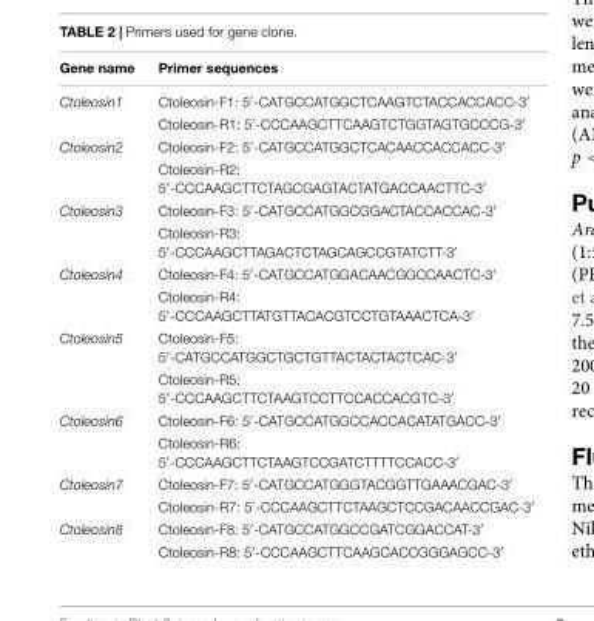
<table><thead><tr><td>Gene name</td><td>Primer sequences</td></tr></thead><tbody><tr><td rowspan="2">Ctoleosin1</td><td>Ctoleosin-F1: 5′-CATGCCATGGCTCAAGTCTACCACCACC-3′</td></tr><tr><td>Ctoleosin-R1: 5′-CCCAAGCTTCAAGTCTGGTAGTGCCCG-3′</td></tr><tr><td rowspan="2">Ctoleosin2</td><td>Ctoleosin-F2: 5′-CATGCCATGGCTCACAACCACCACC-3′</td></tr><tr><td>Ctoleosin-R2: 5′-CCCAAGCTTCTAGCGAGTACTATGACCAACTTC-3′</td></tr><tr><td rowspan="2">Ctoleosin3</td><td>Ctoleosin-F3: 5′-CATGCCATGGCGGACTACCACCAC-3′</td></tr><tr><td>Ctoleosin-R3: 5′-CCCAAGCTTAGACTCTAGCAGCCGTATCTT-3′</td></tr><tr><td rowspan="2">Ctoleosin4</td><td>Ctoleosin-F4: 5′-CATGCCATGGACAACGGCCAACTC-3′</td></tr><tr><td>Ctoleosin-R4: 5′-CCCAAGCTTATGTTACACGTCCTGTAAACTCA-3′</td></tr><tr><td rowspan="2">Ctoleosin5</td><td>Ctoleosin-F5: 5′-CATGCCATGGCTGCTGTTACTACTACTCAC-3′</td></tr><tr><td>Ctoleosin-R5: 5′-CCCAAGCTTCTAAGTCCTTCCACCACGTC-3′</td></tr><tr><td rowspan="2">Ctoleosin6</td><td>Ctoleosin-F6: 5′-CATGCCATGGCCACCACATATGACC-3′</td></tr><tr><td>Ctoleosin-R6: 5′-CCCAAGCTTCTAAGTCCGATCTTTTCCACC-3′</td></tr><tr><td rowspan="2">Ctoleosin7</td><td>Ctoleosin-F7: 5′-CATGCCATGGGTACGGTTGAAACGAC-3′</td></tr><tr><td>Ctoleosin-R7: 5′-CCCAAGCTTCTAAGCTCCGACAACCGAC-3′</td></tr><tr><td rowspan="2">Ctoleosin8</td><td>Ctoleosin-F8: 5′-CATGCCATGGCCGATCGGACCAT-3′</td></tr><tr><td>Ctoleosin-R8: 5′-CCCAAGCTTCAAGCACCGGGAGCC-3′</td></tr></tbody></table>